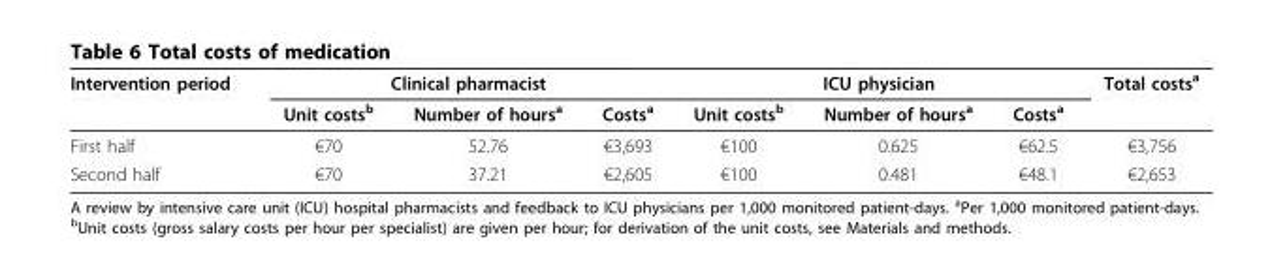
<table><thead><tr><td rowspan="2">Intervention period</td><td colspan="3">Clinical pharmacist</td><td colspan="3">ICU physician</td><td rowspan="2">Total costs<sup>a</sup></td></tr><tr><td>Unit costs<sup>b</sup></td><td>Number of hours<sup>a</sup></td><td>Costs<sup>a</sup></td><td>Unit costs<sup>b</sup></td><td>Number of hours<sup>a</sup></td><td>Costs<sup>a</sup></td></tr></thead><tbody><tr><td>First half</td><td>€70</td><td>52.76</td><td>€3,693</td><td>€100</td><td>0.625</td><td>€62.5</td><td>€3,756</td></tr><tr><td>Second half</td><td>€70</td><td>37.21</td><td>€2,605</td><td>€100</td><td>0.481</td><td>€48.1</td><td>€2,653</td></tr></tbody></table>